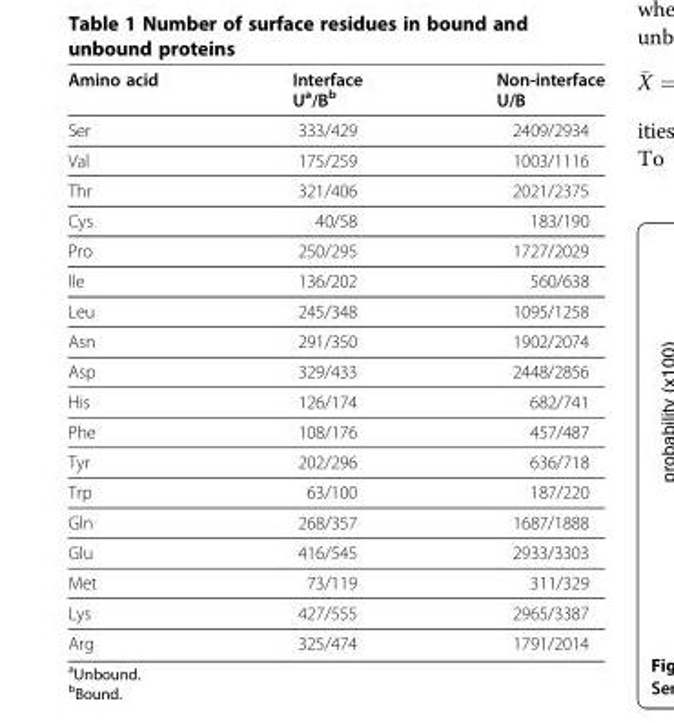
<table><thead><tr><td>Amino acid</td><td>Interface U<sup>a</sup>/B<sup>b</sup></td><td>Non-interface U/B</td></tr></thead><tbody><tr><td>Ser</td><td>333/429</td><td>2409/2934</td></tr><tr><td>Val</td><td>175/259</td><td>1003/1116</td></tr><tr><td>Thr</td><td>321/406</td><td>2021/2375</td></tr><tr><td>Cys</td><td>40/58</td><td>183/190</td></tr><tr><td>Pro</td><td>250/295</td><td>1727/2029</td></tr><tr><td>Ile</td><td>136/202</td><td>560/638</td></tr><tr><td>Leu</td><td>245/348</td><td>1095/1258</td></tr><tr><td>Asn</td><td>291/350</td><td>1902/2074</td></tr><tr><td>Asp</td><td>329/433</td><td>2448/2856</td></tr><tr><td>His</td><td>126/174</td><td>682/741</td></tr><tr><td>Phe</td><td>108/176</td><td>457/487</td></tr><tr><td>Tyr</td><td>202/296</td><td>636/718</td></tr><tr><td>Trp</td><td>63/100</td><td>187/220</td></tr><tr><td>Gln</td><td>268/357</td><td>1687/1888</td></tr><tr><td>Glu</td><td>416/545</td><td>2933/3303</td></tr><tr><td>Met</td><td>73/119</td><td>311/329</td></tr><tr><td>Lys</td><td>427/555</td><td>2965/3387</td></tr><tr><td>Arg</td><td>325/474</td><td>1791/2014</td></tr></tbody></table>